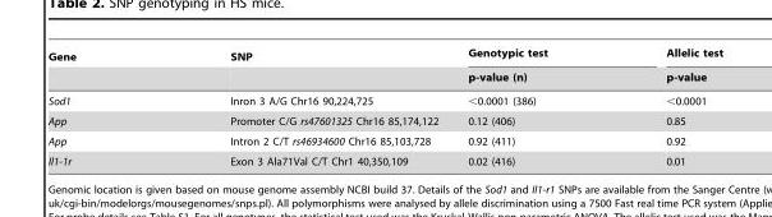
<table><thead><tr><td rowspan="2">Gene</td><td rowspan="2">SNP</td><td rowspan="2">Genotypic test p-value (n)</td><td rowspan="2">Allelic test p-value</td></tr><tr></tr></thead><tbody><tr><td>Sod1</td><td>Inron 3 A/G Chr16 90,224,725</td><td>&lt;0.0001 (386)</td><td>&lt;0.0001</td></tr><tr><td>App</td><td>Promoter C/G rs47601325 Chr16 85,174,122</td><td>0.12 (406)</td><td>0.85</td></tr><tr><td>App</td><td>Intron 2 C/T rs46934600 Chr16 85,103,728</td><td>0.92 (411)</td><td>0.92</td></tr><tr><td>Il1-1r</td><td>Exon 3 Ala71Val C/T Chr1 40,350,109</td><td>0.02 (416)</td><td>0.01</td></tr></tbody></table>